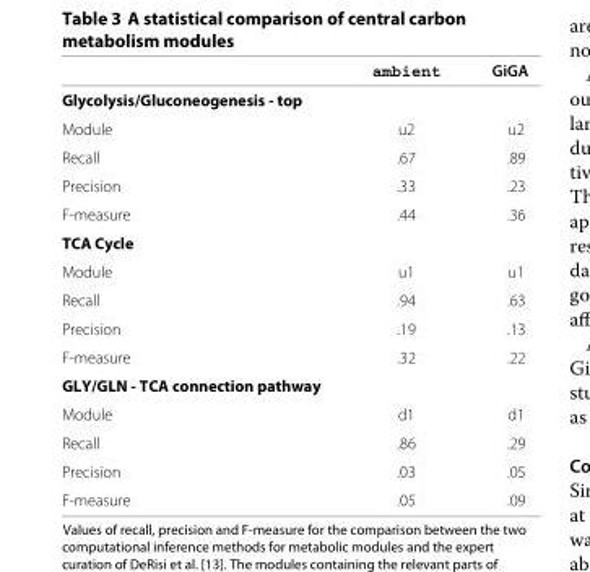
<table><thead><tr><td></td><td>ambient</td><td>GiGA</td></tr></thead><tbody><tr><td colspan="3">Glycolysis/Gluconeogenesis - top</td></tr><tr><td>Module</td><td>u2</td><td>u2</td></tr><tr><td>Recall</td><td>.67</td><td>.89</td></tr><tr><td>Precision</td><td>.33</td><td>.23</td></tr><tr><td>F-measure</td><td>.44</td><td>.36</td></tr><tr><td colspan="3">TCA Cycle</td></tr><tr><td>Module</td><td>u1</td><td>u1</td></tr><tr><td>Recall</td><td>.94</td><td>.63</td></tr><tr><td>Precision</td><td>.19</td><td>.13</td></tr><tr><td>F-measure</td><td>.32</td><td>.22</td></tr><tr><td colspan="3">GLY/GLN - TCA connection pathway</td></tr><tr><td>Module</td><td>d1</td><td>d1</td></tr><tr><td>Recall</td><td>.86</td><td>.29</td></tr><tr><td>Precision</td><td>.03</td><td>.05</td></tr><tr><td>F-measure</td><td>.05</td><td>.09</td></tr></tbody></table>